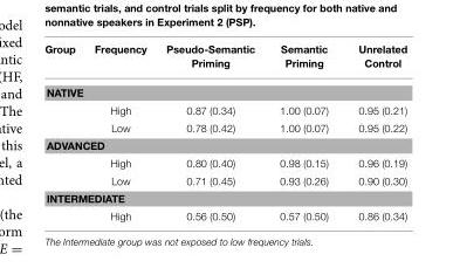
<table><thead><tr><td>Group</td><td>Frequency</td><td>Pseudo-Semantic Priming</td><td>Semantic Priming</td><td>Unrelated Control</td></tr></thead><tbody><tr><td colspan="5">NATIVE</td></tr><tr><td></td><td>High</td><td>0.87 (0.34)</td><td>1.00 (0.07)</td><td>0.95 (0.21)</td></tr><tr><td></td><td>Low</td><td>0.78 (0.42)</td><td>1.00 (0.07)</td><td>0.95 (0.22)</td></tr><tr><td colspan="5">ADVANCED</td></tr><tr><td></td><td>High</td><td>0.80 (0.40)</td><td>0.98 (0.15)</td><td>0.96 (0.19)</td></tr><tr><td></td><td>Low</td><td>0.71 (0.45)</td><td>0.93 (0.26)</td><td>0.90 (0.30)</td></tr><tr><td colspan="5">INTERMEDIATE</td></tr><tr><td></td><td>High</td><td>0.56 (0.50)</td><td>0.57 (0.50)</td><td>0.86 (0.34)</td></tr></tbody></table>